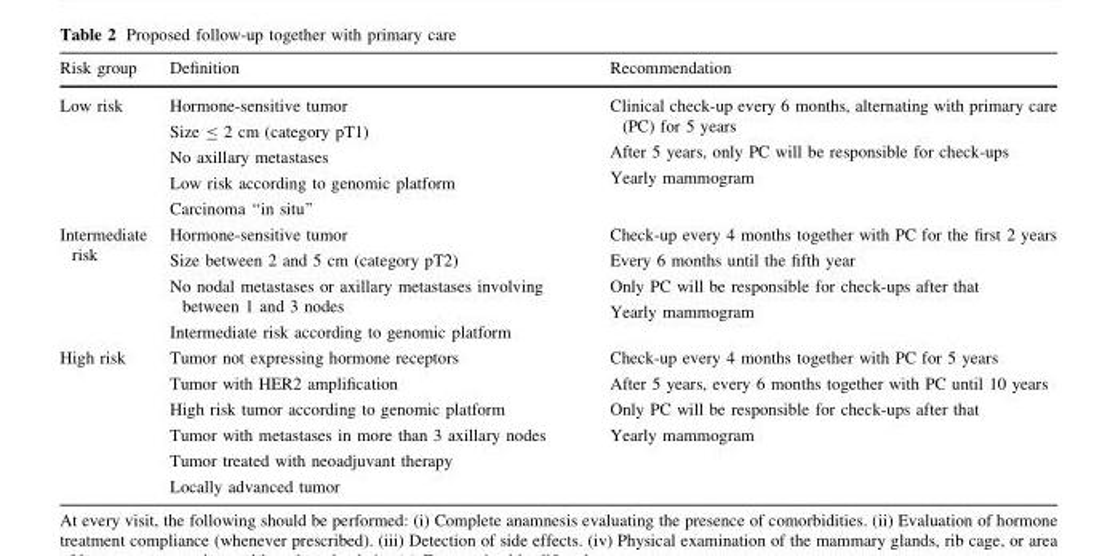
<table><thead><tr><td>Risk group</td><td>Definition</td><td>Recommendation</td></tr></thead><tbody><tr><td>Low risk</td><td>Hormone-sensitive tumor Size B 2 cm (category pT1) No axillary metastases Low risk according to genomic platform Carcinoma ‘‘in situ’’</td><td>Clinical check-up every 6 months, alternating with primary care (PC) for 5 years After 5 years, only PC will be responsible for check-ups Yearly mammogram</td></tr><tr><td>Intermediate risk</td><td>Hormone-sensitive tumor Size between 2 and 5 cm (category pT2) No nodal metastases or axillary metastases involving between 1 and 3 nodes Intermediate risk according to genomic platform</td><td>Check-up every 4 months together with PC for the first 2 years Every 6 months until the fifth year Only PC will be responsible for check-ups after that Yearly mammogram</td></tr><tr><td>High risk</td><td>Tumor not expressing hormone receptors Tumor with HER2 amplification High risk tumor according to genomic platform Tumor with metastases in more than 3 axillary nodes Tumor treated with neoadjuvant therapy Locally advanced tumor</td><td>Check-up every 4 months together with PC for 5 years After 5 years, every 6 months together with PC until 10 years Only PC will be responsible for check-ups after that Yearly mammogram</td></tr></tbody></table>